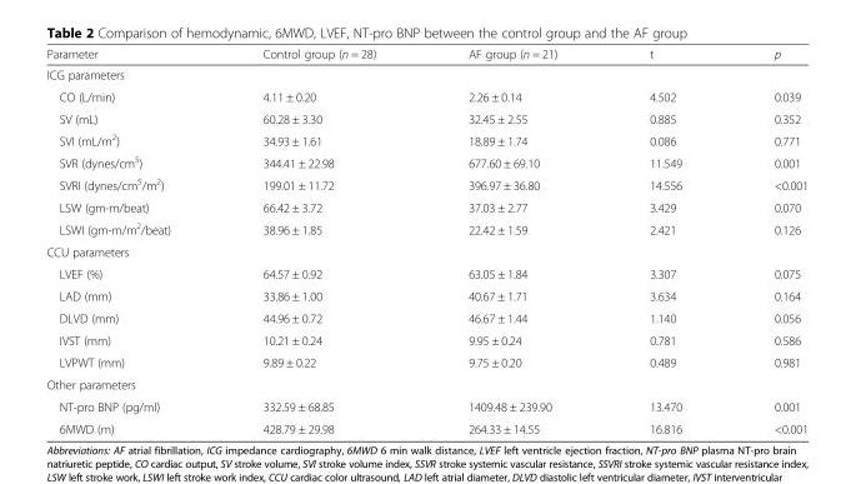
<table><thead><tr><td>Parameter</td><td>Control group (n = 28)</td><td>AF group (n = 21)</td><td>t</td><td>p</td></tr></thead><tbody><tr><td colspan="5">ICG parameters</td></tr><tr><td>CO (L/min)</td><td>4.11 ± 0.20</td><td>2.26 ± 0.14</td><td>4.502</td><td>0.039</td></tr><tr><td>SV (mL)</td><td>60.28 ± 3.30</td><td>32.45 ± 2.55</td><td>0.885</td><td>0.352</td></tr><tr><td>SVI (mL/m<sup>2</sup>)</td><td>34.93 ± 1.61</td><td>18.89 ± 1.74</td><td>0.086</td><td>0.771</td></tr><tr><td>SVR (dynes/cm<sup>5</sup>)</td><td>344.41 ± 22.98</td><td>677.60 ± 69.10</td><td>11.549</td><td>0.001</td></tr><tr><td>SVRI (dynes/cm<sup>5</sup>/m<sup>2</sup>)</td><td>199.01 ± 11.72</td><td>396.97 ± 36.80</td><td>14.556</td><td>&lt;0.001</td></tr><tr><td>LSW (gm-m/beat)</td><td>66.42 ± 3.72</td><td>37.03 ± 2.77</td><td>3.429</td><td>0.070</td></tr><tr><td>LSWI (gm-m/m<sup>2</sup>/beat)</td><td>38.96 ± 1.85</td><td>22.42 ± 1.59</td><td>2.421</td><td>0.126</td></tr><tr><td colspan="5">CCU parameters</td></tr><tr><td>LVEF (%)</td><td>64.57 ± 0.92</td><td>63.05 ± 1.84</td><td>3.307</td><td>0.075</td></tr><tr><td>LAD (mm)</td><td>33.86 ± 1.00</td><td>40.67 ± 1.71</td><td>3.634</td><td>0.164</td></tr><tr><td>DLVD (mm)</td><td>44.96 ± 0.72</td><td>46.67 ± 1.44</td><td>1.140</td><td>0.056</td></tr><tr><td>IVST (mm)</td><td>10.21 ± 0.24</td><td>9.95 ± 0.24</td><td>0.781</td><td>0.586</td></tr><tr><td>LVPWT (mm)</td><td>9.89 ± 0.22</td><td>9.75 ± 0.20</td><td>0.489</td><td>0.981</td></tr><tr><td colspan="5">Other parameters</td></tr><tr><td>NT-pro BNP (pg/ml)</td><td>332.59 ± 68.85</td><td>1409.48 ± 239.90</td><td>13.470</td><td>0.001</td></tr><tr><td>6MWD (m)</td><td>428.79 ± 29.98</td><td>264.33 ± 14.55</td><td>16.816</td><td>&lt;0.001</td></tr></tbody></table>